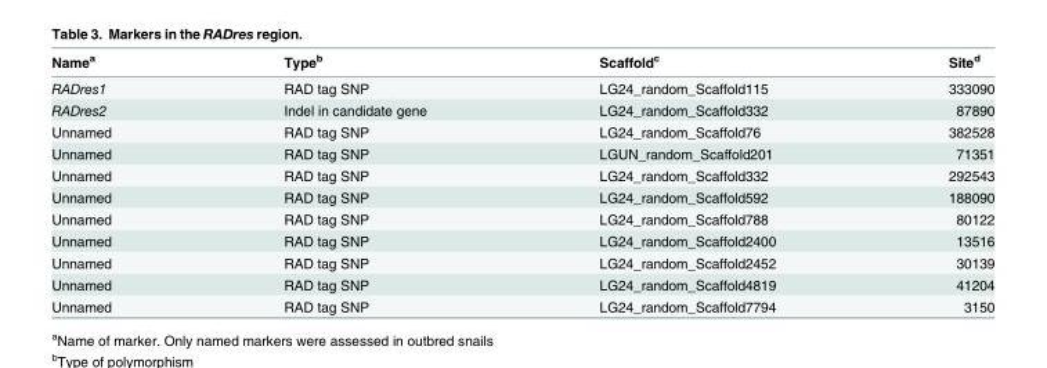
<table><thead><tr><td>Name<sup>a</sup></td><td>Type<sup>b</sup></td><td>Scaffold<sup>c</sup></td><td>Site<sup>d</sup></td></tr></thead><tbody><tr><td>RADres1</td><td>RAD tag SNP</td><td>LG24_random_Scaffold115</td><td>333090</td></tr><tr><td>RADres2</td><td>Indel in candidate gene</td><td>LG24_random_Scaffold332</td><td>87890</td></tr><tr><td>Unnamed</td><td>RAD tag SNP</td><td>LG24_random_Scaffold76</td><td>382528</td></tr><tr><td>Unnamed</td><td>RAD tag SNP</td><td>LGUN_random_Scaffold201</td><td>71351</td></tr><tr><td>Unnamed</td><td>RAD tag SNP</td><td>LG24_random_Scaffold332</td><td>292543</td></tr><tr><td>Unnamed</td><td>RAD tag SNP</td><td>LG24_random_Scaffold592</td><td>188090</td></tr><tr><td>Unnamed</td><td>RAD tag SNP</td><td>LG24_random_Scaffold788</td><td>80122</td></tr><tr><td>Unnamed</td><td>RAD tag SNP</td><td>LG24_random_Scaffold2400</td><td>13516</td></tr><tr><td>Unnamed</td><td>RAD tag SNP</td><td>LG24_random_Scaffold2452</td><td>30139</td></tr><tr><td>Unnamed</td><td>RAD tag SNP</td><td>LG24_random_Scaffold4819</td><td>41204</td></tr><tr><td>Unnamed</td><td>RAD tag SNP</td><td>LG24_random_Scaffold7794</td><td>3150</td></tr></tbody></table>